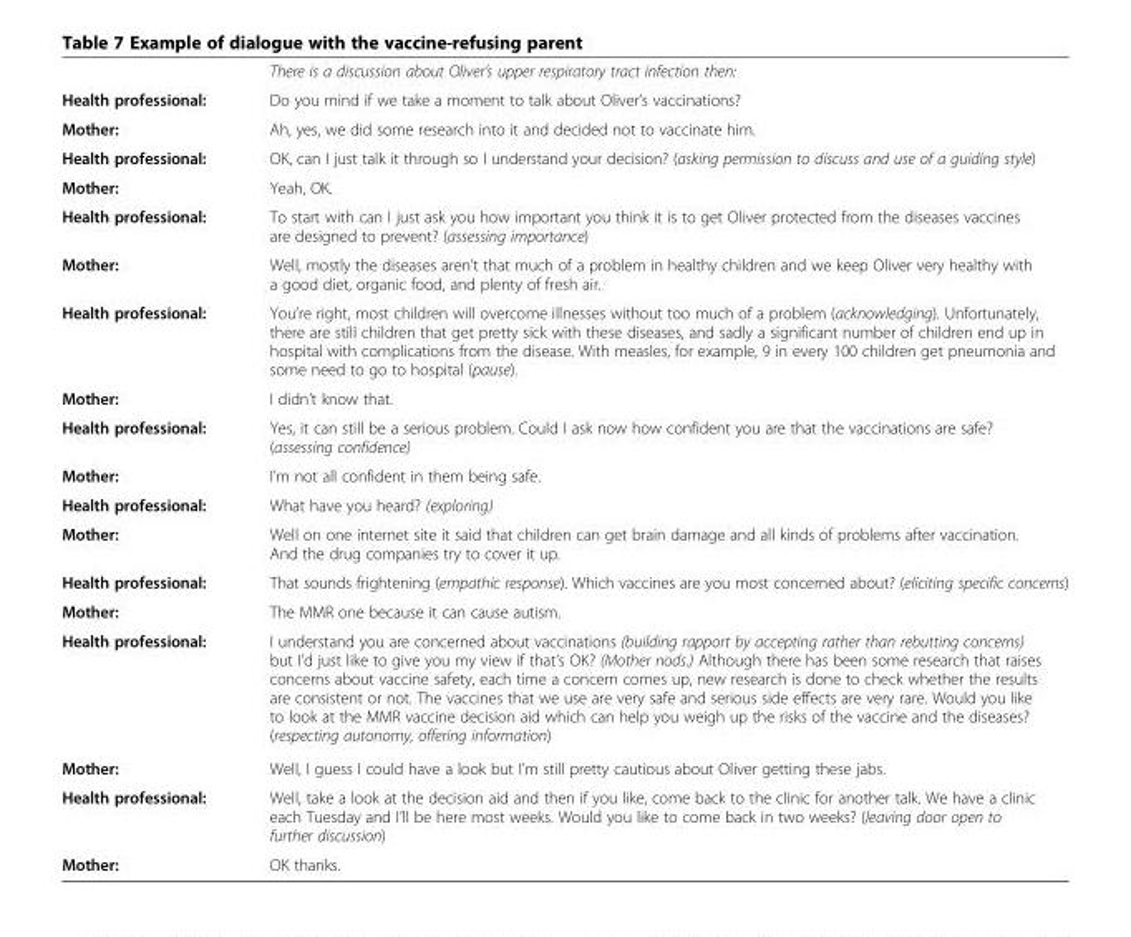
<table><thead><tr><td></td><td>There is a discussion about Oliver’s upper respiratory tract infection then:</td></tr></thead><tbody><tr><td>Health professional:</td><td>Do you mind if we take a moment to talk about Oliver’s vaccinations?</td></tr><tr><td>Mother:</td><td>Ah, yes, we did some research into it and decided not to vaccinate him.</td></tr><tr><td>Health professional:</td><td>OK, can I just talk it through so I understand your decision? (asking permission to discuss and use of a guiding style)</td></tr><tr><td>Mother:</td><td>Yeah, OK.</td></tr><tr><td>Health professional:</td><td>To start with can I just ask you how important you think it is to get Oliver protected from the diseases vaccines are designed to prevent? (assessing importance)</td></tr><tr><td>Mother:</td><td>Well, mostly the diseases aren’t that much of a problem in healthy children and we keep Oliver very healthy with a good diet, organic food, and plenty of fresh air.</td></tr><tr><td>Health professional:</td><td>You’re right, most children will overcome illnesses without too much of a problem (acknowledging). Unfortunately, there are still children that get pretty sick with these diseases, and sadly a significant number of children end up in hospital with complications from the disease. With measles, for example, 9 in every 100 children get pneumonia and some need to go to hospital (pause).</td></tr><tr><td>Mother:</td><td>I didn’t know that.</td></tr><tr><td>Health professional:</td><td>Yes, it can still be a serious problem. Could I ask now how confident you are that the vaccinations are safe? (assessing confidence)</td></tr><tr><td>Mother:</td><td>I’m not all confident in them being safe.</td></tr><tr><td>Health professional:</td><td>What have you heard? (exploring)</td></tr><tr><td>Mother:</td><td>Well on one internet site it said that children can get brain damage and all kinds of problems after vaccination. And the drug companies try to cover it up.</td></tr><tr><td>Health professional:</td><td>That sounds frightening (empathic response). Which vaccines are you most concerned about? (eliciting specific concerns)</td></tr><tr><td>Mother:</td><td>The MMR one because it can cause autism.</td></tr><tr><td>Health professional:</td><td>I understand you are concerned about vaccinations (building rapport by accepting rather than rebutting concerns) but I’d just like to give you my view if that’s OK? (Mother nods.) Although there has been some research that raises concerns about vaccine safety, each time a concern comes up, new research is done to check whether the results are consistent or not. The vaccines that we use are very safe and serious side effects are very rare. Would you like to look at the MMR vaccine decision aid which can help you weigh up the risks of the vaccine and the diseases? (respecting autonomy, offering information)</td></tr><tr><td>Mother:</td><td>Well, I guess I could have a look but I’m still pretty cautious about Oliver getting these jabs.</td></tr><tr><td>Health professional:</td><td>Well, take a look at the decision aid and then if you like, come back to the clinic for another talk. We have a clinic each Tuesday and I’ll be here most weeks. Would you like to come back in two weeks? (leaving door open to further discussion)</td></tr><tr><td>Mother:</td><td>OK thanks.</td></tr></tbody></table>